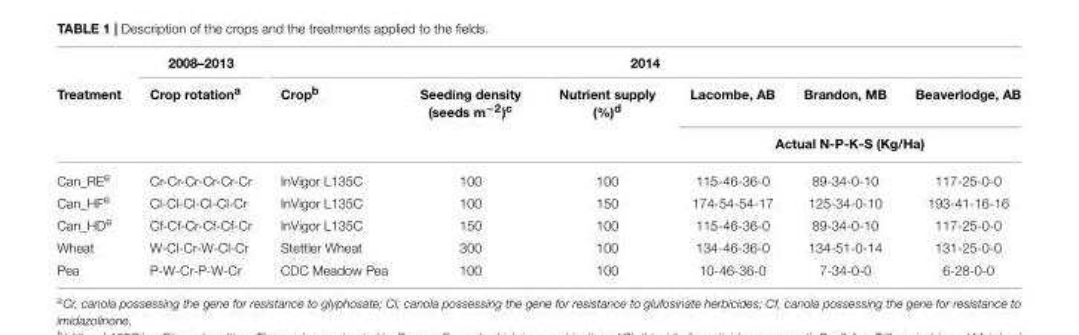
<table><thead><tr><td rowspan="3">Treatment</td><td rowspan="3">2008–2013 Crop rotation<sup>a</sup></td><td colspan="6">2014</td></tr><tr><td rowspan="2">Crop<sup>b</sup></td><td rowspan="2">Seeding density (seeds m<sup>−2</sup>)<sup>c</sup></td><td rowspan="2">Nutrient supply (%)<sup>d</sup></td><td>Lacombe, AB</td><td>Brandon, MB</td><td>Beaverlodge, AB</td></tr><tr><td colspan="3">Actual N-P-K-S (Kg/Ha)</td></tr></thead><tbody><tr><td>Can_RE<sup>e</sup></td><td>Cr-Cr-Cr-Cr-Cr-Cr</td><td>InVigor L135C</td><td>100</td><td>100</td><td>115-46-36-0</td><td>89-34-0-10</td><td>117-25-0-0</td></tr><tr><td>Can_HF<sup>e</sup></td><td>Cl-Cl-Cl-Cl-Cl-Cr</td><td>InVigor L135C</td><td>100</td><td>150</td><td>174-54-54-17</td><td>125-34-0-10</td><td>193-41-16-16</td></tr><tr><td>Can_HD<sup>e</sup></td><td>Cf-Cf-Cr-Cf-Cf-Cr</td><td>InVigor L135C</td><td>150</td><td>100</td><td>115-46-36-0</td><td>89-34-0-10</td><td>117-25-0-0</td></tr><tr><td>Wheat</td><td>W-Cl-Cr-W-Cl-Cr</td><td>Stettler Wheat</td><td>300</td><td>100</td><td>134-46-36-0</td><td>134-51-0-14</td><td>131-25-0-0</td></tr><tr><td>Pea</td><td>P-W-Cr-P-W-Cr</td><td>CDC Meadow Pea</td><td>100</td><td>100</td><td>10-46-36-0</td><td>7-34-0-0</td><td>6-28-0-0</td></tr></tbody></table>